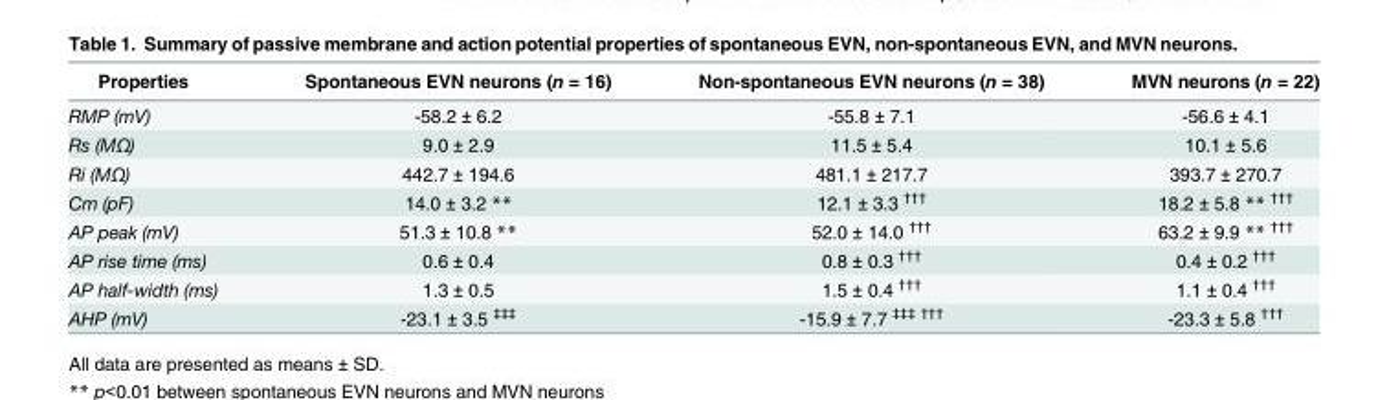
<table><thead><tr><td>Properties</td><td>Spontaneous EVN neurons (n = 16)</td><td>Non-spontaneous EVN neurons (n = 38)</td><td>MVN neurons (n = 22)</td></tr></thead><tbody><tr><td>RMP (mV)</td><td>-58.2 ± 6.2</td><td>-55.8 ± 7.1</td><td>-56.6 ± 4.1</td></tr><tr><td>Rs (MΩ)</td><td>9.0 ± 2.9</td><td>11.5 ± 5.4</td><td>10.1 ± 5.6</td></tr><tr><td>Ri (MΩ)</td><td>442.7 ± 194.6</td><td>481.1 ± 217.7</td><td>393.7 ± 270.7</td></tr><tr><td>Cm (pF)</td><td>14.0 ± 3.2 **</td><td>12.1 ± 3.3 <sup>†††</sup></td><td>18.2 ± 5.8 ** <sup>†††</sup></td></tr><tr><td>AP peak (mV)</td><td>51.3 ± 10.8 **</td><td>52.0 ± 14.0 <sup>†††</sup></td><td>63.2 ± 9.9 ** <sup>†††</sup></td></tr><tr><td>AP rise time (ms)</td><td>0.6 ± 0.4</td><td>0.8 ± 0.3 <sup>†††</sup></td><td>0.4 ± 0.2 <sup>†††</sup></td></tr><tr><td>AP half-width (ms)</td><td>1.3 ± 0.5</td><td>1.5 ± 0.4 <sup>†††</sup></td><td>1.1 ± 0.4 <sup>†††</sup></td></tr><tr><td>AHP (mV)</td><td>-23.1 ± 3.5 <sup>‡‡‡</sup></td><td>-15.9 ± 7.7 <sup>‡‡‡ †††</sup></td><td>-23.3 ± 5.8 <sup>†††</sup></td></tr></tbody></table>